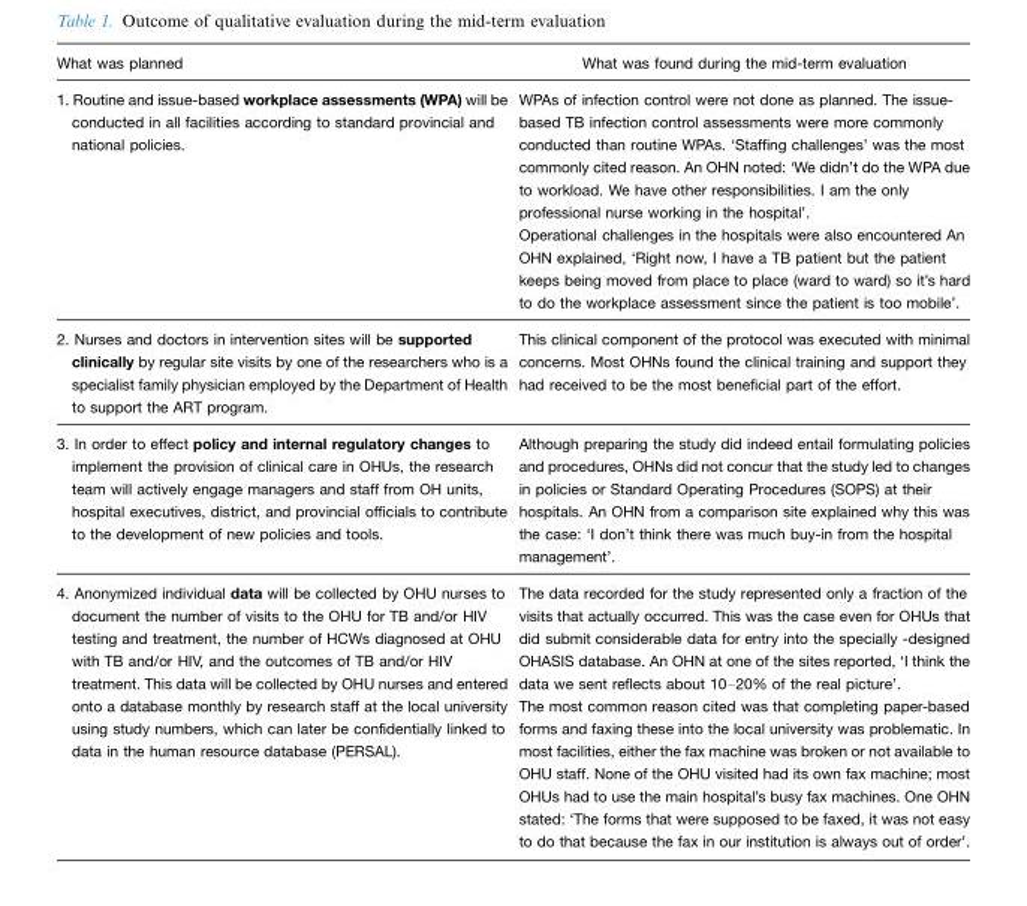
<table><thead><tr><td>What was planned</td><td>What was found during the mid-term evaluation</td></tr></thead><tbody><tr><td>1. Routine and issue-based workplace assessments (WPA) will be conducted in all facilities according to standard provincial and national policies.</td><td>WPAs of infection control were not done as planned. The issue- based TB infection control assessments were more commonly conducted than routine WPAs. ‘Staffing challenges’ was the most commonly cited reason. An OHN noted: ‘We didn’t do the WPA due to workload. We have other responsibilities. I am the only professional nurse working in the hospital’. Operational challenges in the hospitals were also encountered An OHN explained, ‘Right now, I have a TB patient but the patient keeps being moved from place to place (ward to ward) so it’s hard to do the workplace assessment since the patient is too mobile’.</td></tr><tr><td>2. Nurses and doctors in intervention sites will be supported clinically by regular site visits by one of the researchers who is a specialist family physician employed by the Department of Health to support the ART program.</td><td>This clinical component of the protocol was executed with minimal concerns. Most OHNs found the clinical training and support they had received to be the most beneficial part of the effort.</td></tr><tr><td>3. In order to effect policy and internal regulatory changes to implement the provision of clinical care in OHUs, the research team will actively engage managers and staff from OH units, hospital executives, district, and provincial officials to contribute to the development of new policies and tools.</td><td>Although preparing the study did indeed entail formulating policies and procedures, OHNs did not concur that the study led to changes in policies or Standard Operating Procedures (SOPS) at their hospitals. An OHN from a comparison site explained why this was the case: ‘I don’t think there was much buy-in from the hospital management’.</td></tr><tr><td>4. Anonymized individual data will be collected by OHU nurses to document the number of visits to the OHU for TB and/or HIV testing and treatment, the number of HCWs diagnosed at OHU with TB and/or HIV, and the outcomes of TB and/or HIV treatment. This data will be collected by OHU nurses and entered onto a database monthly by research staff at the local university using study numbers, which can later be confidentially linked to data in the human resource database (PERSAL).</td><td>The data recorded for the study represented only a fraction of the visits that actually occurred. This was the case even for OHUs that did submit considerable data for entry into the specially -designed OHASIS database. An OHN at one of the sites reported, ‘I think the data we sent reflects about 10–20% of the real picture’. The most common reason cited was that completing paper-based forms and faxing these into the local university was problematic. In most facilities, either the fax machine was broken or not available to OHU staff. None of the OHU visited had its own fax machine; most OHUs had to use the main hospital’s busy fax machines. One OHN stated: ‘The forms that were supposed to be faxed, it was not easy to do that because the fax in our institution is always out of order’.</td></tr></tbody></table>